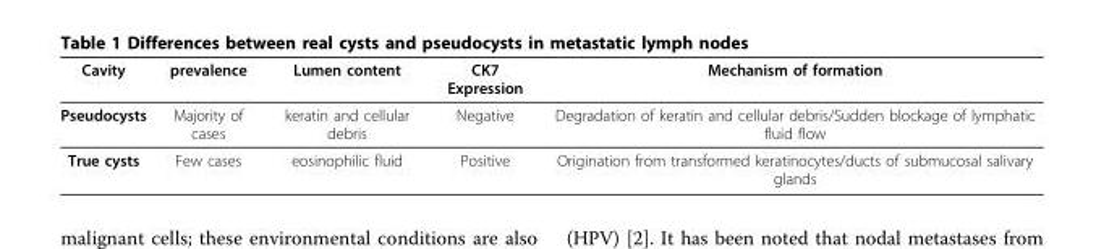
<table><thead><tr><td>Cavity</td><td>prevalence</td><td>Lumen content</td><td>CK7 Expression</td><td>Mechanism of formation</td></tr></thead><tbody><tr><td>Pseudocysts</td><td>Majority of cases</td><td>keratin and cellular debris</td><td>Negative</td><td>Degradation of keratin and cellular debris/Sudden blockage of lymphatic fluid flow</td></tr><tr><td>True cysts</td><td>Few cases</td><td>eosinophilic fluid</td><td>Positive</td><td>Origination from transformed keratinocytes/ducts of submucosal salivary glands</td></tr></tbody></table>